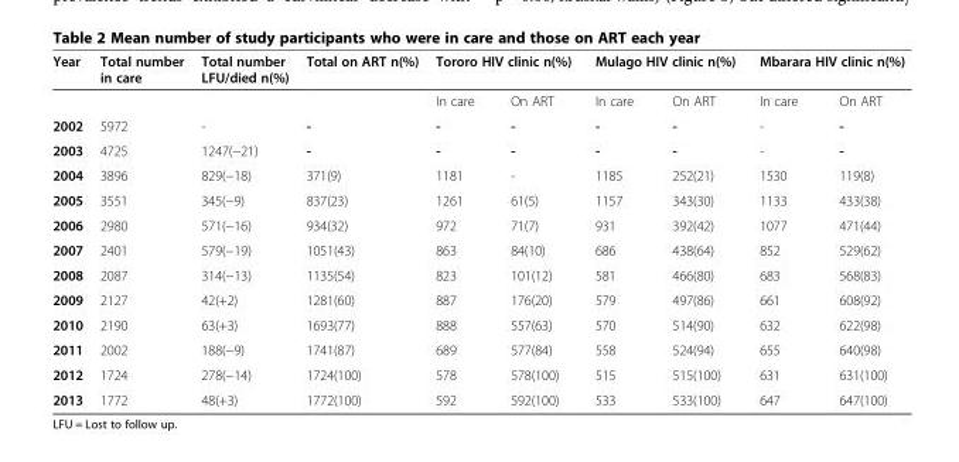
<table><thead><tr><td rowspan="2">Year</td><td rowspan="2">Total number in care</td><td rowspan="2">Total number LFU/died n(%)</td><td rowspan="2">Total on ART n(%)</td><td colspan="2">Tororo HIV clinic n(%)</td><td colspan="2">Mulago HIV clinic n(%)</td><td colspan="2">Mbarara HIV clinic n(%)</td></tr><tr><td>In care</td><td>On ART</td><td>In care</td><td>On ART</td><td>In care</td><td>On ART</td></tr></thead><tbody><tr><td>2002</td><td>5972</td><td>-</td><td>-</td><td>-</td><td>-</td><td>-</td><td>-</td><td>-</td><td>-</td></tr><tr><td>2003</td><td>4725</td><td>1247(−21)</td><td>-</td><td>-</td><td>-</td><td>-</td><td>-</td><td>-</td><td>-</td></tr><tr><td>2004</td><td>3896</td><td>829(−18)</td><td>371(9)</td><td>1181</td><td>-</td><td>1185</td><td>252(21)</td><td>1530</td><td>119(8)</td></tr><tr><td>2005</td><td>3551</td><td>345(−9)</td><td>837(23)</td><td>1261</td><td>61(5)</td><td>1157</td><td>343(30)</td><td>1133</td><td>433(38)</td></tr><tr><td>2006</td><td>2980</td><td>571(−16)</td><td>934(32)</td><td>972</td><td>71(7)</td><td>931</td><td>392(42)</td><td>1077</td><td>471(44)</td></tr><tr><td>2007</td><td>2401</td><td>579(−19)</td><td>1051(43)</td><td>863</td><td>84(10)</td><td>686</td><td>438(64)</td><td>852</td><td>529(62)</td></tr><tr><td>2008</td><td>2087</td><td>314(−13)</td><td>1135(54)</td><td>823</td><td>101(12)</td><td>581</td><td>466(80)</td><td>683</td><td>568(83)</td></tr><tr><td>2009</td><td>2127</td><td>42(+2)</td><td>1281(60)</td><td>887</td><td>176(20)</td><td>579</td><td>497(86)</td><td>661</td><td>608(92)</td></tr><tr><td>2010</td><td>2190</td><td>63(+3)</td><td>1693(77)</td><td>888</td><td>557(63)</td><td>570</td><td>514(90)</td><td>632</td><td>622(98)</td></tr><tr><td>2011</td><td>2002</td><td>188(−9)</td><td>1741(87)</td><td>689</td><td>577(84)</td><td>558</td><td>524(94)</td><td>655</td><td>640(98)</td></tr><tr><td>2012</td><td>1724</td><td>278(−14)</td><td>1724(100)</td><td>578</td><td>578(100)</td><td>515</td><td>515(100)</td><td>631</td><td>631(100)</td></tr><tr><td>2013</td><td>1772</td><td>48(+3)</td><td>1772(100)</td><td>592</td><td>592(100)</td><td>533</td><td>533(100)</td><td>647</td><td>647(100)</td></tr></tbody></table>